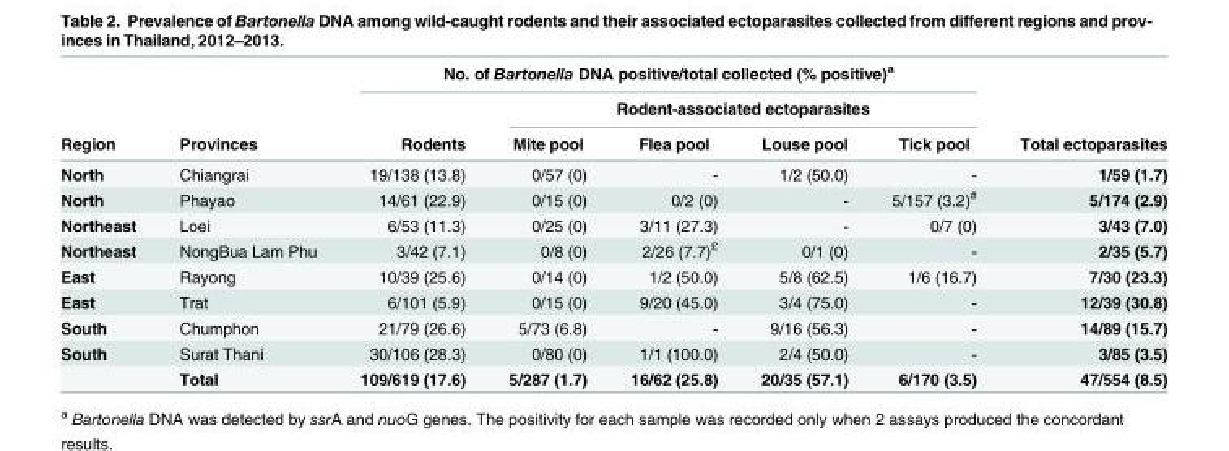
<table><thead><tr><td rowspan="3">Region</td><td rowspan="3">Provinces</td><td colspan="5">No. of Bartonella DNA positive/total collected (% positive)<sup>a</sup></td><td rowspan="3">Total ectoparasites</td></tr><tr><td rowspan="2">Rodents</td><td colspan="4">Rodent-associated ectoparasites</td></tr><tr><td>Mite pool</td><td>Flea pool</td><td>Louse pool</td><td>Tick pool</td></tr></thead><tbody><tr><td>North</td><td>Chiangrai</td><td>19/138 (13.8)</td><td>0/57 (0)</td><td>-</td><td>1/2 (50.0)</td><td>-</td><td>1/59 (1.7)</td></tr><tr><td>North</td><td>Phayao</td><td>14/61 (22.9)</td><td>0/15 (0)</td><td>0/2 (0)</td><td>-</td><td>5/157 (3.2)<sup>#</sup></td><td>5/174 (2.9)</td></tr><tr><td>Northeast</td><td>Loei</td><td>6/53 (11.3)</td><td>0/25 (0)</td><td>3/11 (27.3)</td><td>-</td><td>0/7 (0)</td><td>3/43 (7.0)</td></tr><tr><td>Northeast</td><td>NongBua Lam Phu</td><td>3/42 (7.1)</td><td>0/8 (0)</td><td>2/26 (7.7)<sup>£</sup></td><td>0/1 (0)</td><td>-</td><td>2/35 (5.7)</td></tr><tr><td>East</td><td>Rayong</td><td>10/39 (25.6)</td><td>0/14 (0)</td><td>1/2 (50.0)</td><td>5/8 (62.5)</td><td>1/6 (16.7)</td><td>7/30 (23.3)</td></tr><tr><td>East</td><td>Trat</td><td>6/101 (5.9)</td><td>0/15 (0)</td><td>9/20 (45.0)</td><td>3/4 (75.0)</td><td>-</td><td>12/39 (30.8)</td></tr><tr><td>South</td><td>Chumphon</td><td>21/79 (26.6)</td><td>5/73 (6.8)</td><td>-</td><td>9/16 (56.3)</td><td>-</td><td>14/89 (15.7)</td></tr><tr><td rowspan="2">South</td><td>Surat Thani</td><td>30/106 (28.3)</td><td>0/80 (0)</td><td>1/1 (100.0)</td><td>2/4 (50.0)</td><td>-</td><td>3/85 (3.5)</td></tr><tr><td>Total</td><td>109/619 (17.6)</td><td>5/287 (1.7)</td><td>16/62 (25.8)</td><td>20/35 (57.1)</td><td>6/170 (3.5)</td><td>47/554 (8.5)</td></tr></tbody></table>